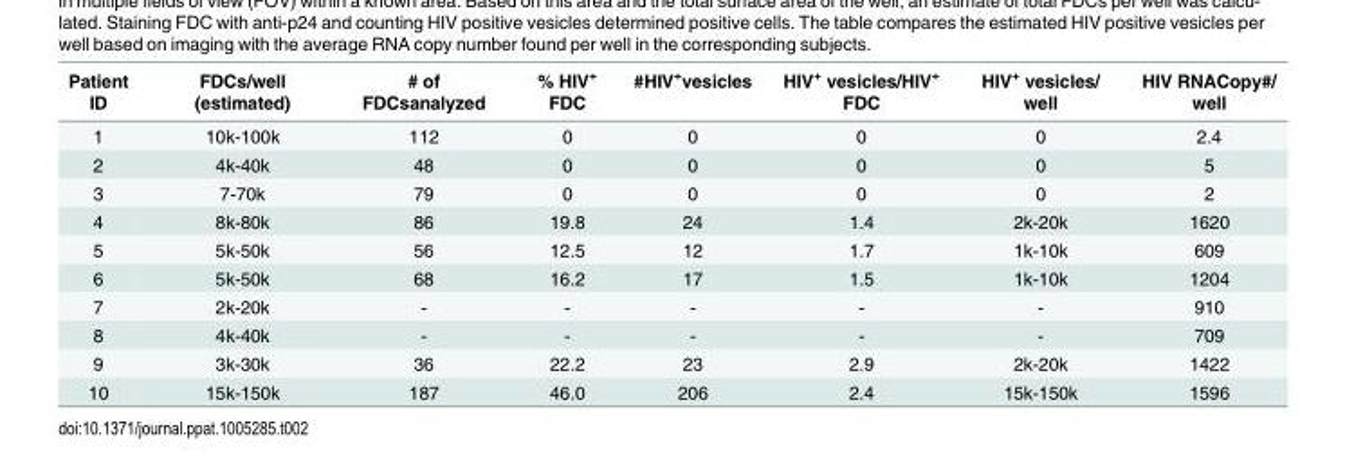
<table><thead><tr><td>Patient ID</td><td>FDCs/well (estimated)</td><td># of FDCsanalyzed</td><td>% HIV<sup>+</sup> FDC</td><td>#HIV<sup>+</sup>vesicles</td><td>HIV<sup>+</sup> vesicles/HIV<sup>+</sup> FDC</td><td>HIV<sup>+</sup> vesicles/ well</td><td>HIV RNACopy#/ well</td></tr></thead><tbody><tr><td>1</td><td>10k-100k</td><td>112</td><td>0</td><td>0</td><td>0</td><td>0</td><td>2.4</td></tr><tr><td>2</td><td>4k-40k</td><td>48</td><td>0</td><td>0</td><td>0</td><td>0</td><td>5</td></tr><tr><td>3</td><td>7-70k</td><td>79</td><td>0</td><td>0</td><td>0</td><td>0</td><td>2</td></tr><tr><td>4</td><td>8k-80k</td><td>86</td><td>19.8</td><td>24</td><td>1.4</td><td>2k-20k</td><td>1620</td></tr><tr><td>5</td><td>5k-50k</td><td>56</td><td>12.5</td><td>12</td><td>1.7</td><td>1k-10k</td><td>609</td></tr><tr><td>6</td><td>5k-50k</td><td>68</td><td>16.2</td><td>17</td><td>1.5</td><td>1k-10k</td><td>1204</td></tr><tr><td>7</td><td>2k-20k</td><td>-</td><td>-</td><td>-</td><td>-</td><td>-</td><td>910</td></tr><tr><td>8</td><td>4k-40k</td><td>-</td><td>-</td><td>-</td><td>-</td><td>-</td><td>709</td></tr><tr><td>9</td><td>3k-30k</td><td>36</td><td>22.2</td><td>23</td><td>2.9</td><td>2k-20k</td><td>1422</td></tr><tr><td>10</td><td>15k-150k</td><td>187</td><td>46.0</td><td>206</td><td>2.4</td><td>15k-150k</td><td>1596</td></tr></tbody></table>